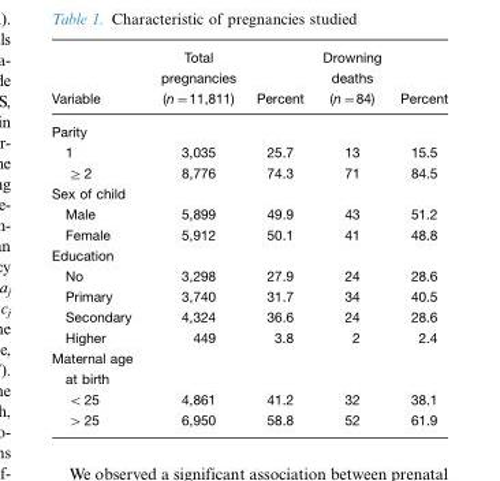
<table><thead><tr><td>Variable</td><td>Total pregnancies (n=11,811)</td><td>Percent</td><td>Drowning deaths (n=84)</td><td>Percent</td></tr></thead><tbody><tr><td colspan="5">Parity</td></tr><tr><td>1</td><td>3,035</td><td>25.7</td><td>13</td><td>15.5</td></tr><tr><td>≥2</td><td>8,776</td><td>74.3</td><td>71</td><td>84.5</td></tr><tr><td colspan="5">Sex of child</td></tr><tr><td>Male</td><td>5,899</td><td>49.9</td><td>43</td><td>51.2</td></tr><tr><td>Female</td><td>5,912</td><td>50.1</td><td>41</td><td>48.8</td></tr><tr><td colspan="5">Education</td></tr><tr><td>No</td><td>3,298</td><td>27.9</td><td>24</td><td>28.6</td></tr><tr><td>Primary</td><td>3,740</td><td>31.7</td><td>34</td><td>40.5</td></tr><tr><td>Secondary</td><td>4,324</td><td>36.6</td><td>24</td><td>28.6</td></tr><tr><td>Higher</td><td>449</td><td>3.8</td><td>2</td><td>2.4</td></tr><tr><td colspan="5">Maternal age at birth</td></tr><tr><td>&lt;25</td><td>4,861</td><td>41.2</td><td>32</td><td>38.1</td></tr><tr><td>&gt;25</td><td>6,950</td><td>58.8</td><td>52</td><td>61.9</td></tr></tbody></table>